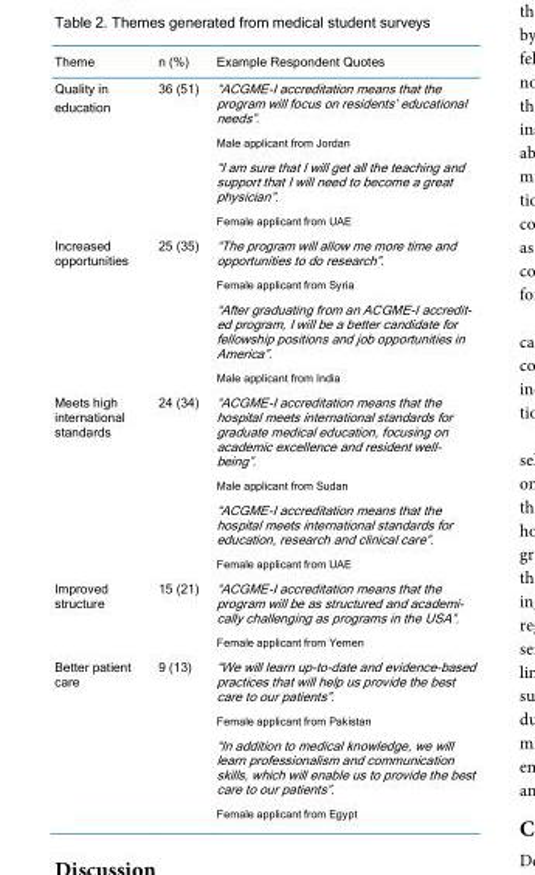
<table><thead><tr><td>Theme</td><td>n (%)</td><td>Example Respondent Quotes</td></tr></thead><tbody><tr><td>Quality in education</td><td>36 (51)</td><td>“ACGME-I accreditation means that the program will focus on residents’ educational needs”. Male applicant from Jordan “I am sure that I will get all the teaching and support that I will need to become a great physician”. Female applicant from UAE</td></tr><tr><td>Increased opportunities</td><td>25 (35)</td><td>“The program will allow me more time and opportunities to do research”. Female applicant from Syria “After graduating from an ACGME-I accredit- ed program, I will be a better candidate for fellowship positions and job opportunities in America”. Male applicant from India</td></tr><tr><td>Meets high international standards</td><td>24 (34)</td><td>“ACGME-I accreditation means that the hospital meets international standards for graduate medical education, focusing on academic excellence and resident well- being”. Male applicant from Sudan “ACGME-I accreditation means that the hospital meets international standards for education, research and clinical care”. Female applicant from UAE</td></tr><tr><td>Improved structure</td><td>15 (21)</td><td>“ACGME-I accreditation means that the program will be as structured and academi- cally challenging as programs in the USA”. Female applicant from Yemen</td></tr><tr><td>Better patient care</td><td>9 (13)</td><td>“We will learn up-to-date and evidence-based practices that will help us provide the best care to our patients”. Female applicant from Pakistan “In addition to medical knowledge, we will learn professionalism and communication skills, which will enable us to provide the best care to our patients”. Female applicant from Egypt</td></tr></tbody></table>